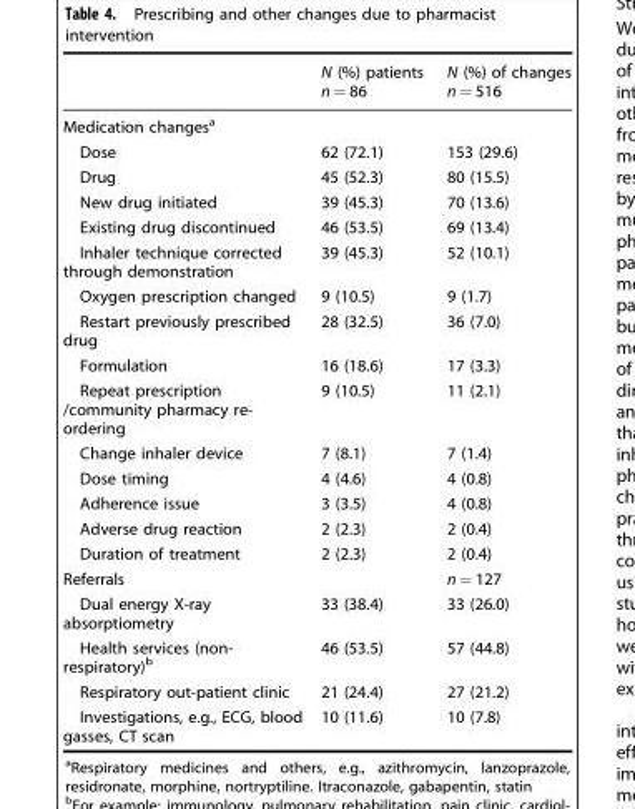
<table><thead><tr><td></td><td>N (%) patients n = 86</td><td>N (%) of changes n = 516</td></tr></thead><tbody><tr><td colspan="3">Medication changes<sup>a</sup></td></tr><tr><td>Dose</td><td>62 (72.1)</td><td>153 (29.6)</td></tr><tr><td>Drug</td><td>45 (52.3)</td><td>80 (15.5)</td></tr><tr><td>New drug initiated</td><td>39 (45.3)</td><td>70 (13.6)</td></tr><tr><td>Existing drug discontinued</td><td>46 (53.5)</td><td>69 (13.4)</td></tr><tr><td>Inhaler technique corrected through demonstration</td><td>39 (45.3)</td><td>52 (10.1)</td></tr><tr><td>Oxygen prescription changed</td><td>9 (10.5)</td><td>9 (1.7)</td></tr><tr><td>Restart previously prescribed drug</td><td>28 (32.5)</td><td>36 (7.0)</td></tr><tr><td>Formulation</td><td>16 (18.6)</td><td>17 (3.3)</td></tr><tr><td>Repeat prescription /community pharmacy re- ordering</td><td>9 (10.5)</td><td>11 (2.1)</td></tr><tr><td>Change inhaler device</td><td>7 (8.1)</td><td>7 (1.4)</td></tr><tr><td>Dose timing</td><td>4 (4.6)</td><td>4 (0.8)</td></tr><tr><td>Adherence issue</td><td>3 (3.5)</td><td>4 (0.8)</td></tr><tr><td>Adverse drug reaction</td><td>2 (2.3)</td><td>2 (0.4)</td></tr><tr><td>Duration of treatment</td><td>2 (2.3)</td><td>2 (0.4)</td></tr><tr><td>Referrals</td><td></td><td>n = 127</td></tr><tr><td>Dual energy X-ray absorptiometry</td><td>33 (38.4)</td><td>33 (26.0)</td></tr><tr><td>Health services (non- respiratory)<sup>b</sup></td><td>46 (53.5)</td><td>57 (44.8)</td></tr><tr><td>Respiratory out-patient clinic</td><td>21 (24.4)</td><td>27 (21.2)</td></tr><tr><td>Investigations, e.g., ECG, blood gasses, CT scan</td><td>10 (11.6)</td><td>10 (7.8)</td></tr></tbody></table>